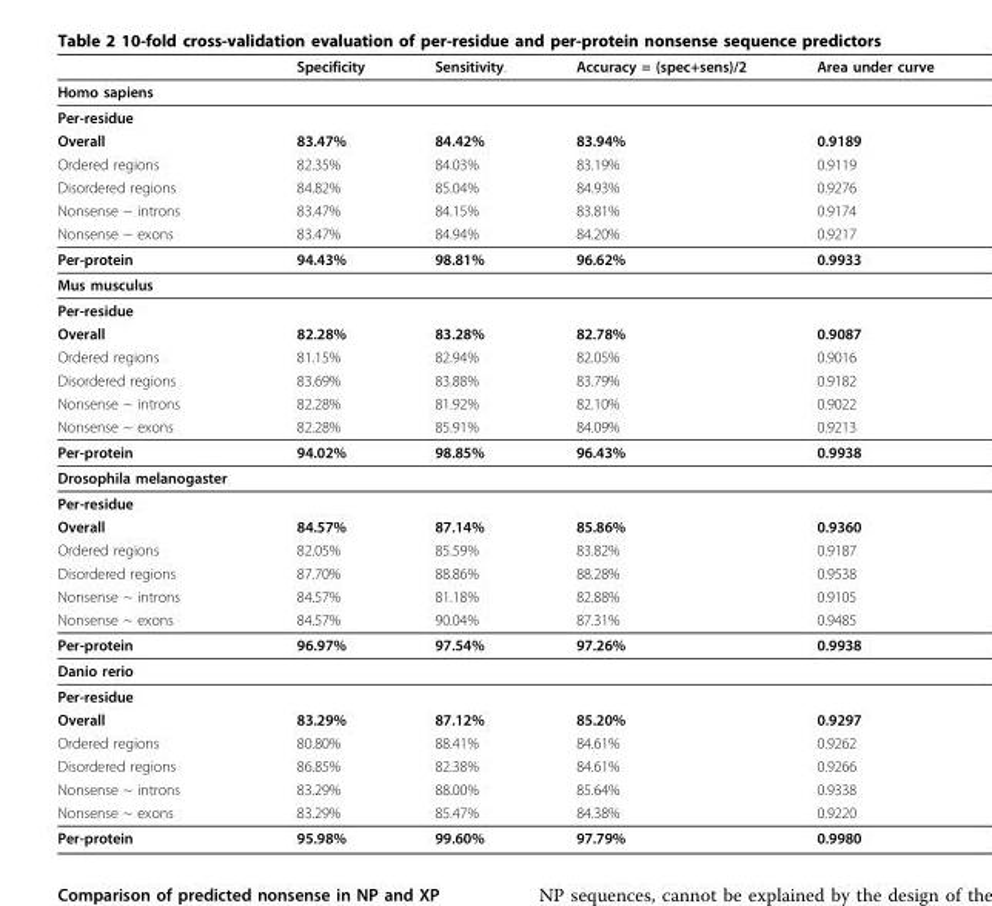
<table><thead><tr><td></td><td>Specificity</td><td>Sensitivity.</td><td>Accuracy = (spec+sens)/2</td><td>Area under curve</td></tr></thead><tbody><tr><td colspan="5">Homo sapiens</td></tr><tr><td colspan="5">Per-residue</td></tr><tr><td>Overall</td><td>83.47%</td><td>84.42%</td><td>83.94%</td><td>0.9189</td></tr><tr><td>Ordered regions</td><td>82.35%</td><td>84.03%</td><td>83.19%</td><td>0.9119</td></tr><tr><td>Disordered regions</td><td>84.82%</td><td>85.04%</td><td>84.93%</td><td>0.9276</td></tr><tr><td>Nonsense ~ introns</td><td>83.47%</td><td>84.15%</td><td>83.81%</td><td>0.9174</td></tr><tr><td>Nonsense ~ exons</td><td>83.47%</td><td>84.94%</td><td>84.20%</td><td>0.9217</td></tr><tr><td>Per-protein</td><td>94.43%</td><td>98.81%</td><td>96.62%</td><td>0.9933</td></tr><tr><td colspan="5">Mus musculus</td></tr><tr><td colspan="5">Per-residue</td></tr><tr><td>Overall</td><td>82.28%</td><td>83.28%</td><td>82.78%</td><td>0.9087</td></tr><tr><td>Ordered regions</td><td>81.15%</td><td>82.94%</td><td>82.05%</td><td>0.9016</td></tr><tr><td>Disordered regions</td><td>83.69%</td><td>83.88%</td><td>83.79%</td><td>0.9182</td></tr><tr><td>Nonsense ~ introns</td><td>82.28%</td><td>81.92%</td><td>82.10%</td><td>0.9022</td></tr><tr><td>Nonsense ~ exons</td><td>82.28%</td><td>85.91%</td><td>84.09%</td><td>0.9213</td></tr><tr><td>Per-protein</td><td>94.02%</td><td>98.85%</td><td>96.43%</td><td>0.9938</td></tr><tr><td colspan="5">Drosophila melanogaster</td></tr><tr><td colspan="5">Per-residue</td></tr><tr><td>Overall</td><td>84.57%</td><td>87.14%</td><td>85.86%</td><td>0.9360</td></tr><tr><td>Ordered regions</td><td>82.05%</td><td>85.59%</td><td>83.82%</td><td>0.9187</td></tr><tr><td>Disordered regions</td><td>87.70%</td><td>88.86%</td><td>88.28%</td><td>0.9538</td></tr><tr><td>Nonsense ~ introns</td><td>84.57%</td><td>81.18%</td><td>82.88%</td><td>0.9105</td></tr><tr><td>Nonsense ~ exons</td><td>84.57%</td><td>90.04%</td><td>87.31%</td><td>0.9485</td></tr><tr><td>Per-protein</td><td>96.97%</td><td>97.54%</td><td>97.26%</td><td>0.9938</td></tr><tr><td colspan="5">Danio rerio</td></tr><tr><td colspan="5">Per-residue</td></tr><tr><td>Overall</td><td>83.29%</td><td>87.12%</td><td>85.20%</td><td>0.9297</td></tr><tr><td>Ordered regions</td><td>80.80%</td><td>88.41%</td><td>84.61%</td><td>0.9262</td></tr><tr><td>Disordered regions</td><td>86.85%</td><td>82.38%</td><td>84.61%</td><td>0.9266</td></tr><tr><td>Nonsense ~ introns</td><td>83.29%</td><td>88.00%</td><td>85.64%</td><td>0.9338</td></tr><tr><td>Nonsense ~ exons</td><td>83.29%</td><td>85.47%</td><td>84.38%</td><td>0.9220</td></tr><tr><td>Per-protein</td><td>95.98%</td><td>99.60%</td><td>97.79%</td><td>0.9980</td></tr></tbody></table>